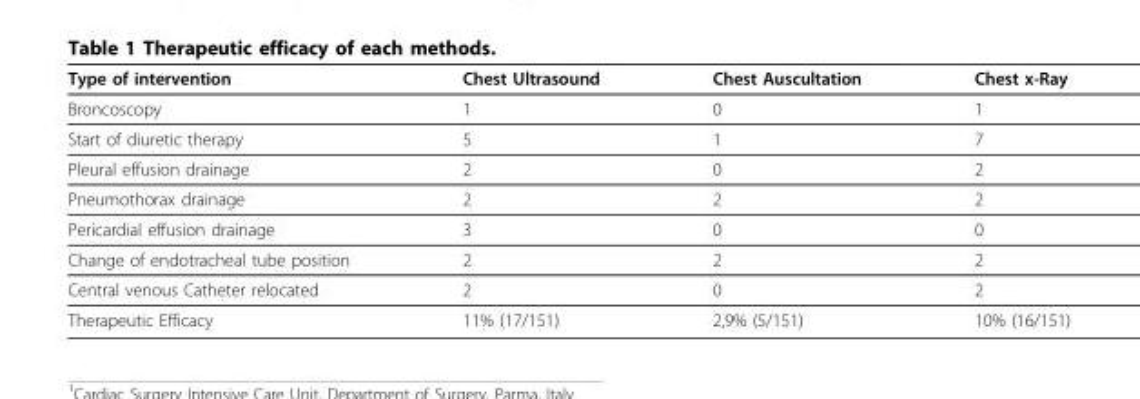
<table><thead><tr><td>Type of intervention</td><td>Chest Ultrasound</td><td>Chest Auscultation</td><td>Chest x-Ray</td></tr></thead><tbody><tr><td>Broncoscopy</td><td>1</td><td>0</td><td>1</td></tr><tr><td>Start of diuretic therapy</td><td>5</td><td>1</td><td>7</td></tr><tr><td>Pleural effusion drainage</td><td>2</td><td>0</td><td>2</td></tr><tr><td>Pneumothorax drainage</td><td>2</td><td>2</td><td>2</td></tr><tr><td>Pericardial effusion drainage</td><td>3</td><td>0</td><td>0</td></tr><tr><td>Change of endotracheal tube position</td><td>2</td><td>2</td><td>2</td></tr><tr><td>Central venous Catheter relocated</td><td>2</td><td>0</td><td>2</td></tr><tr><td>Therapeutic Efficacy</td><td>11% (17/151)</td><td>2,9% (5/151)</td><td>10% (16/151)</td></tr></tbody></table>